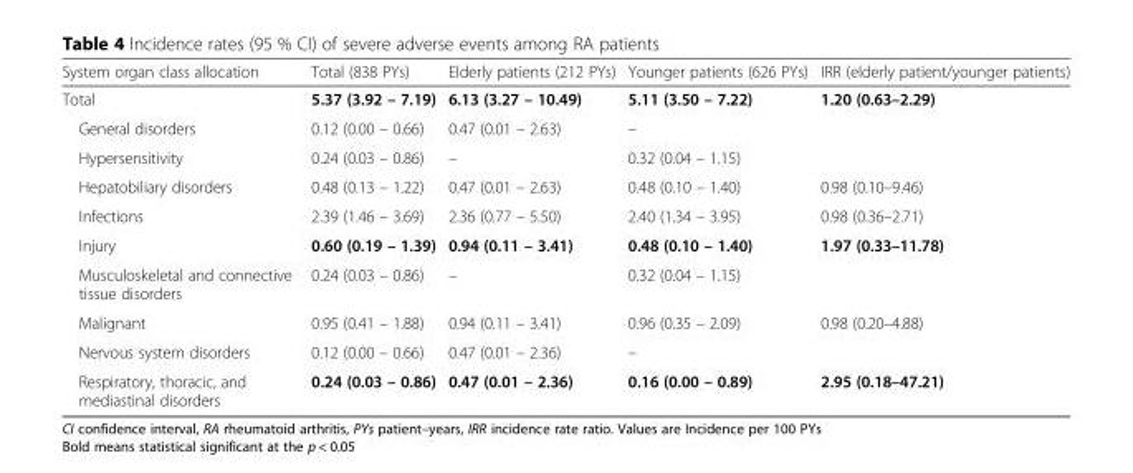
<table><thead><tr><td>System organ class allocation</td><td>Total (838 PYs)</td><td>Elderly patients (212 PYs)</td><td>Younger patients (626 PYs)</td><td>IRR (elderly patient/younger patients)</td></tr></thead><tbody><tr><td>Total</td><td>5.37 (3.92 – 7.19)</td><td>6.13 (3.27 – 10.49)</td><td>5.11 (3.50 – 7.22)</td><td>1.20 (0.63–2.29)</td></tr><tr><td>General disorders</td><td>0.12 (0.00 – 0.66)</td><td>0.47 (0.01 – 2.63)</td><td>–</td><td></td></tr><tr><td>Hypersensitivity</td><td>0.24 (0.03 – 0.86)</td><td>–</td><td>0.32 (0.04 – 1.15)</td><td></td></tr><tr><td>Hepatobiliary disorders</td><td>0.48 (0.13 – 1.22)</td><td>0.47 (0.01 – 2.63)</td><td>0.48 (0.10 – 1.40)</td><td>0.98 (0.10–9.46)</td></tr><tr><td>Infections</td><td>2.39 (1.46 – 3.69)</td><td>2.36 (0.77 – 5.50)</td><td>2.40 (1.34 – 3.95)</td><td>0.98 (0.36–2.71)</td></tr><tr><td>Injury</td><td>0.60 (0.19 – 1.39)</td><td>0.94 (0.11 – 3.41)</td><td>0.48 (0.10 – 1.40)</td><td>1.97 (0.33–11.78)</td></tr><tr><td>Musculoskeletal and connective tissue disorders</td><td>0.24 (0.03 – 0.86)</td><td>–</td><td>0.32 (0.04 – 1.15)</td><td></td></tr><tr><td>Malignant</td><td>0.95 (0.41 – 1.88)</td><td>0.94 (0.11 – 3.41)</td><td>0.96 (0.35 – 2.09)</td><td>0.98 (0.20–4.88)</td></tr><tr><td>Nervous system disorders</td><td>0.12 (0.00 – 0.66)</td><td>0.47 (0.01 – 2.36)</td><td>–</td><td></td></tr><tr><td>Respiratory, thoracic, and mediastinal disorders</td><td>0.24 (0.03 – 0.86)</td><td>0.47 (0.01 – 2.36)</td><td>0.16 (0.00 – 0.89)</td><td>2.95 (0.18–47.21)</td></tr></tbody></table>